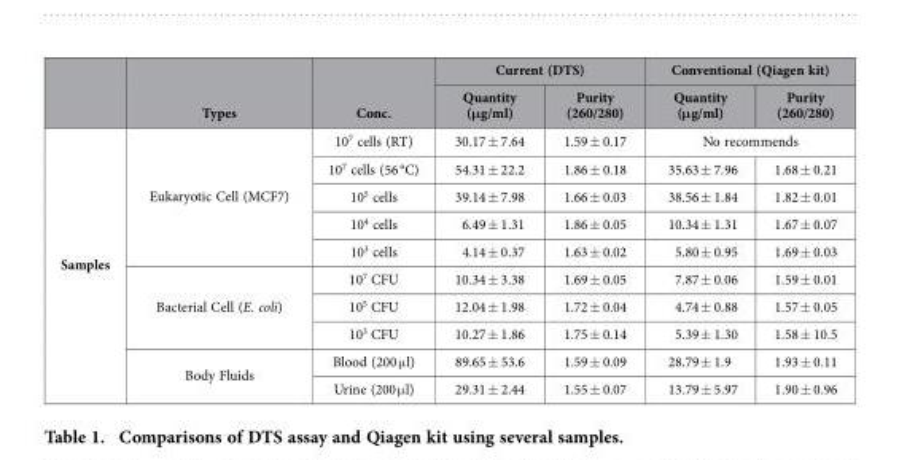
<table><thead><tr><td rowspan="2"></td><td rowspan="2">Types</td><td rowspan="2">Conc.</td><td colspan="2">Current (DTS)</td><td colspan="2">Conventional (Qiagen kit)</td></tr><tr><td>Quantity (μg/ml)</td><td>Purity (260/280)</td><td>Quantity (μg/ml)</td><td>Purity (260/280)</td></tr></thead><tbody><tr><td rowspan="10">Samples</td><td rowspan="5">Eukaryotic Cell (MCF7)</td><td>10<sup>7</sup> cells (RT)</td><td>30.17 ± 7.64</td><td>1.59 ± 0.17</td><td colspan="2">No recommends</td></tr><tr><td>10<sup>7</sup> cells (56 °C)</td><td>54.31 ± 22.2</td><td>1.86 ± 0.18</td><td>35.63 ± 7.96</td><td>1.68 ± 0.21</td></tr><tr><td>10<sup>5</sup> cells</td><td>39.14 ± 7.98</td><td>1.66 ± 0.03</td><td>38.56 ± 1.84</td><td>1.82 ± 0.01</td></tr><tr><td>10<sup>4</sup> cells</td><td>6.49 ± 1.31</td><td>1.86 ± 0.05</td><td>10.34 ± 1.31</td><td>1.67 ± 0.07</td></tr><tr><td>10<sup>3</sup> cells</td><td>4.14 ± 0.37</td><td>1.63 ± 0.02</td><td>5.80 ± 0.95</td><td>1.69 ± 0.03</td></tr><tr><td rowspan="3">Bacterial Cell (E. coli)</td><td>10<sup>7</sup> CFU</td><td>10.34 ± 3.38</td><td>1.69 ± 0.05</td><td>7.87 ± 0.06</td><td>1.59 ± 0.01</td></tr><tr><td>10<sup>5</sup> CFU</td><td>12.04 ± 1.98</td><td>1.72 ± 0.04</td><td>4.74 ± 0.88</td><td>1.57 ± 0.05</td></tr><tr><td>10<sup>3</sup> CFU</td><td>10.27 ± 1.86</td><td>1.75 ± 0.14</td><td>5.39 ± 1.30</td><td>1.58 ± 10.5</td></tr><tr><td rowspan="2">Body Fluids</td><td>Blood (200 μ l)</td><td>89.65 ± 53.6</td><td>1.59 ± 0.09</td><td>28.79 ± 1.9</td><td>1.93 ± 0.11</td></tr><tr><td>Urine (200 μ l)</td><td>29.31 ± 2.44</td><td>1.55 ± 0.07</td><td>13.79 ± 5.97</td><td>1.90 ± 0.96</td></tr></tbody></table>